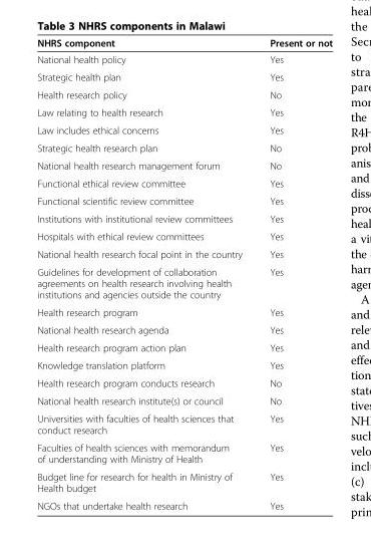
<table><thead><tr><td>NHRS component</td><td>Present or not</td></tr></thead><tbody><tr><td>National health policy</td><td>Yes</td></tr><tr><td>Strategic health plan</td><td>Yes</td></tr><tr><td>Health research policy</td><td>No</td></tr><tr><td>Law relating to health research</td><td>Yes</td></tr><tr><td>Law includes ethical concerns</td><td>Yes</td></tr><tr><td>Strategic health research plan</td><td>No</td></tr><tr><td>National health research management forum</td><td>No</td></tr><tr><td>Functional ethical review committee</td><td>Yes</td></tr><tr><td>Functional scientific review committee</td><td>Yes</td></tr><tr><td>Institutions with institutional review committees</td><td>Yes</td></tr><tr><td>Hospitals with ethical review committees</td><td>Yes</td></tr><tr><td>National health research focal point in the country</td><td>Yes</td></tr><tr><td>Guidelines for development of collaboration agreements on health research involving health institutions and agencies outside the country</td><td>Yes</td></tr><tr><td>Health research program</td><td>Yes</td></tr><tr><td>National health research agenda</td><td>Yes</td></tr><tr><td>Health research program action plan</td><td>Yes</td></tr><tr><td>Knowledge translation platform</td><td>Yes</td></tr><tr><td>Health research program conducts research</td><td>No</td></tr><tr><td>National health research institute(s) or council</td><td>No</td></tr><tr><td>Universities with faculties of health sciences that conduct research</td><td>Yes</td></tr><tr><td>Faculties of health sciences with memorandum of understanding with Ministry of Health</td><td>Yes</td></tr><tr><td>Budget line for research for health in Ministry of Health budget</td><td>Yes</td></tr><tr><td>NGOs that undertake health research</td><td>Yes</td></tr></tbody></table>